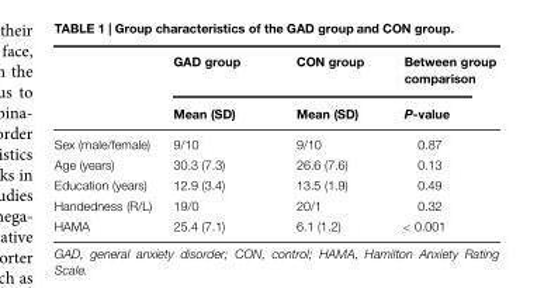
<table><thead><tr><td rowspan="2"></td><td rowspan="2">GAD group Mean (SD)</td><td rowspan="2">CON group Mean (SD)</td><td rowspan="2">Between group comparison P-value</td></tr><tr></tr></thead><tbody><tr><td>Sex (male/female)</td><td>9/10</td><td>9/10</td><td>0.87</td></tr><tr><td>Age (years)</td><td>30.3 (7.3)</td><td>26.6 (7.6)</td><td>0.13</td></tr><tr><td>Education (years)</td><td>12.9 (3.4)</td><td>13.5 (1.9)</td><td>0.49</td></tr><tr><td>Handedness (R/L)</td><td>19/0</td><td>20/1</td><td>0.32</td></tr><tr><td>HAMA</td><td>25.4 (7.1)</td><td>6.1 (1.2)</td><td>&lt; 0.001</td></tr></tbody></table>